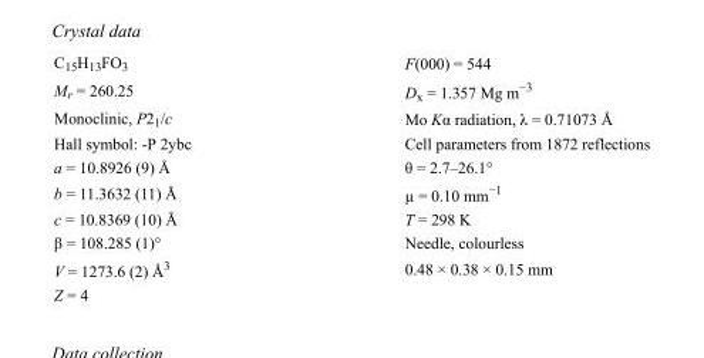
<table><tbody><tr><td>C<sub>15</sub>H<sub>13</sub>FO<sub>3</sub></td><td>F(000) = 544</td></tr><tr><td>M<sub>r</sub> = 260.25</td><td>D<sub>x</sub> = 1.357 Mg m<sup>−3</sup></td></tr><tr><td>Monoclinic, P2<sub>1</sub>/c</td><td>Mo Kα radiation, λ = 0.71073 Å</td></tr><tr><td>Hall symbol: -P 2ybc</td><td>Cell parameters from 1872 reflections</td></tr><tr><td>a = 10.8926 (9) Å</td><td>θ = 2.7–26.1°</td></tr><tr><td>b = 11.3632 (11) Å</td><td>µ = 0.10 mm<sup>−1</sup></td></tr><tr><td>c = 10.8369 (10) Å</td><td>T = 298 K</td></tr><tr><td>β = 108.285 (1)°</td><td>Needle, colourless</td></tr><tr><td>V = 1273.6 (2) Å<sup>3</sup></td><td>0.48 × 0.38 × 0.15 mm</td></tr><tr><td>Z = 4</td><td></td></tr></tbody></table>